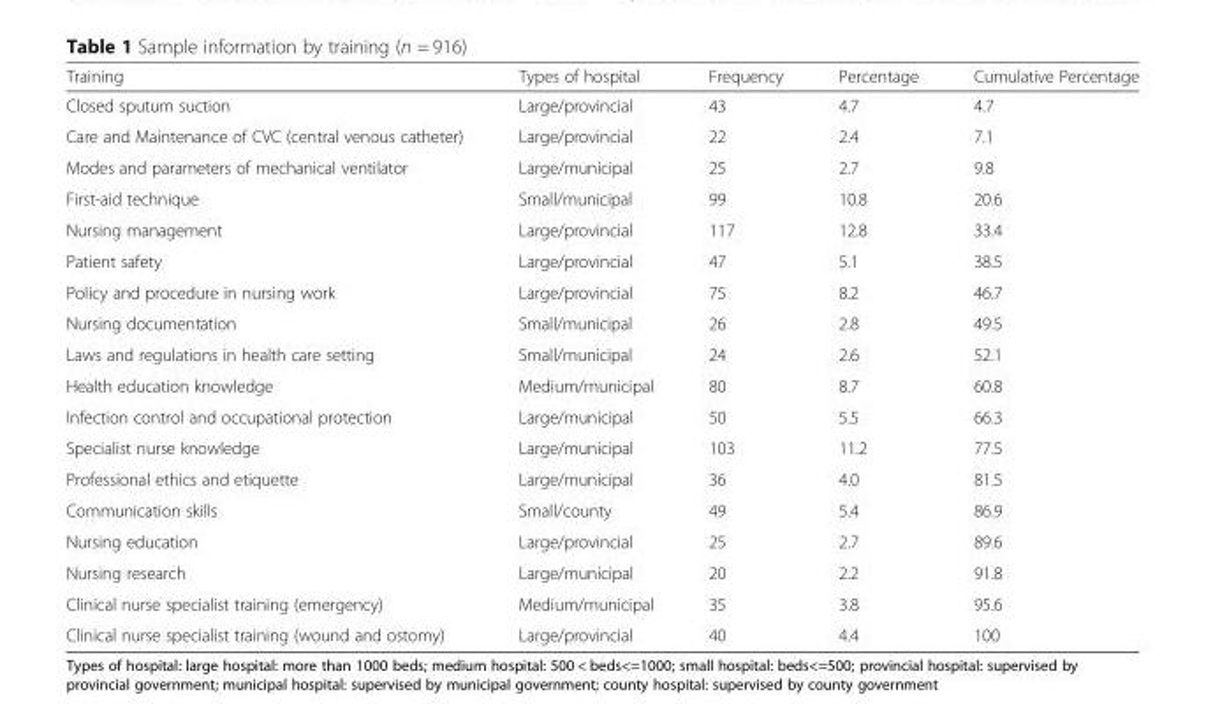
<table><thead><tr><td>Training</td><td>Types of hospital</td><td>Frequency</td><td>Percentage</td><td>Cumulative Percentage</td></tr></thead><tbody><tr><td>Closed sputum suction</td><td>Large/provincial</td><td>43</td><td>4.7</td><td>4.7</td></tr><tr><td>Care and Maintenance of CVC (central venous catheter)</td><td>Large/provincial</td><td>22</td><td>2.4</td><td>7.1</td></tr><tr><td>Modes and parameters of mechanical ventilator</td><td>Large/municipal</td><td>25</td><td>2.7</td><td>9.8</td></tr><tr><td>First-aid technique</td><td>Small/municipal</td><td>99</td><td>10.8</td><td>20.6</td></tr><tr><td>Nursing management</td><td>Large/provincial</td><td>117</td><td>12.8</td><td>33.4</td></tr><tr><td>Patient safety</td><td>Large/provincial</td><td>47</td><td>5.1</td><td>38.5</td></tr><tr><td>Policy and procedure in nursing work</td><td>Large/provincial</td><td>75</td><td>8.2</td><td>46.7</td></tr><tr><td>Nursing documentation</td><td>Small/municipal</td><td>26</td><td>2.8</td><td>49.5</td></tr><tr><td>Laws and regulations in health care setting</td><td>Small/municipal</td><td>24</td><td>2.6</td><td>52.1</td></tr><tr><td>Health education knowledge</td><td>Medium/municipal</td><td>80</td><td>8.7</td><td>60.8</td></tr><tr><td>Infection control and occupational protection</td><td>Large/municipal</td><td>50</td><td>5.5</td><td>66.3</td></tr><tr><td>Specialist nurse knowledge</td><td>Large/municipal</td><td>103</td><td>11.2</td><td>77.5</td></tr><tr><td>Professional ethics and etiquette</td><td>Large/municipal</td><td>36</td><td>4.0</td><td>81.5</td></tr><tr><td>Communication skills</td><td>Small/county</td><td>49</td><td>5.4</td><td>86.9</td></tr><tr><td>Nursing education</td><td>Large/provincial</td><td>25</td><td>2.7</td><td>89.6</td></tr><tr><td>Nursing research</td><td>Large/municipal</td><td>20</td><td>2.2</td><td>91.8</td></tr><tr><td>Clinical nurse specialist training (emergency)</td><td>Medium/municipal</td><td>35</td><td>3.8</td><td>95.6</td></tr><tr><td>Clinical nurse specialist training (wound and ostomy)</td><td>Large/provincial</td><td>40</td><td>4.4</td><td>100</td></tr></tbody></table>